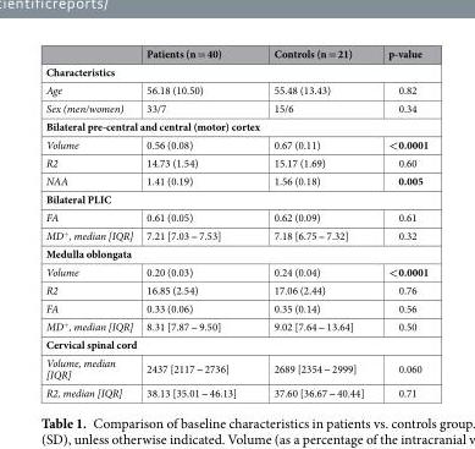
<table><thead><tr><td></td><td>Patients (n = 40)</td><td>Controls (n = 21)</td><td>p-value</td></tr></thead><tbody><tr><td colspan="4">Characteristics</td></tr><tr><td>Age</td><td>56.18 (10.50)</td><td>55.48 (13.43)</td><td>0.82</td></tr><tr><td>Sex (men/women)</td><td>33/7</td><td>15/6</td><td>0.34</td></tr><tr><td colspan="4">Bilateral pre-central and central (motor) cortex</td></tr><tr><td>Volume</td><td>0.56 (0.08)</td><td>0.67 (0.11)</td><td>&lt;0.0001</td></tr><tr><td>R2</td><td>14.73 (1.54)</td><td>15.17 (1.69)</td><td>0.60</td></tr><tr><td>NAA</td><td>1.41 (0.19)</td><td>1.56 (0.18)</td><td>0.005</td></tr><tr><td colspan="4">Bilateral PLIC</td></tr><tr><td>FA</td><td>0.61 (0.05)</td><td>0.62 (0.09)</td><td>0.61</td></tr><tr><td>MD<sup>+</sup>, median [IQR]</td><td>7.21 [7.03 ‒ 7.53]</td><td>7.18 [6.75 ‒ 7.32]</td><td>0.32</td></tr><tr><td colspan="4">Medulla oblongata</td></tr><tr><td>Volume</td><td>0.20 (0.03)</td><td>0.24 (0.04)</td><td>&lt;0.0001</td></tr><tr><td>R2</td><td>16.85 (2.54)</td><td>17.06 (2.44)</td><td>0.76</td></tr><tr><td>FA</td><td>0.33 (0.06)</td><td>0.35 (0.14)</td><td>0.56</td></tr><tr><td>MD<sup>+</sup>, median [IQR]</td><td>8.31 [7.87 ‒ 9.50]</td><td>9.02 [7.64 ‒ 13.64]</td><td>0.50</td></tr><tr><td colspan="4">Cervical spinal cord</td></tr><tr><td>Volume, median [IQR]</td><td>2437 [2117 ‒ 2736]</td><td>2689 [2354 ‒ 2999]</td><td>0.060</td></tr><tr><td>R2, median [IQR]</td><td>38.13 [35.01 ‒ 46.13]</td><td>37.60 [36.67 ‒ 40.44]</td><td>0.71</td></tr></tbody></table>